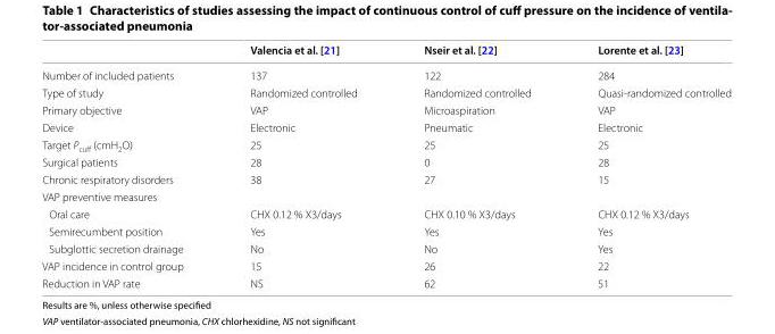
<table><thead><tr><td></td><td>Valencia et al. [21]</td><td>Nseir et al. [22]</td><td>Lorente et al. [23]</td></tr></thead><tbody><tr><td>Number of included patients</td><td>137</td><td>122</td><td>284</td></tr><tr><td>Type of study</td><td>Randomized controlled</td><td>Randomized controlled</td><td>Quasi-randomized controlled</td></tr><tr><td>Primary objective</td><td>VAP</td><td>Microaspiration</td><td>VAP</td></tr><tr><td>Device</td><td>Electronic</td><td>Pneumatic</td><td>Electronic</td></tr><tr><td>Target P<sub>cuff</sub> (cmH<sub>2</sub>O)</td><td>25</td><td>25</td><td>25</td></tr><tr><td>Surgical patients</td><td>28</td><td>0</td><td>28</td></tr><tr><td>Chronic respiratory disorders</td><td>38</td><td>27</td><td>15</td></tr><tr><td colspan="4">VAP preventive measures</td></tr><tr><td>Oral care</td><td>CHX 0.12 % X3/days</td><td>CHX 0.10 % X3/days</td><td>CHX 0.12 % X3/days</td></tr><tr><td>Semirecumbent position</td><td>Yes</td><td>Yes</td><td>Yes</td></tr><tr><td>Subglottic secretion drainage</td><td>No</td><td>No</td><td>Yes</td></tr><tr><td>VAP incidence in control group</td><td>15</td><td>26</td><td>22</td></tr><tr><td>Reduction in VAP rate</td><td>NS</td><td>62</td><td>51</td></tr></tbody></table>